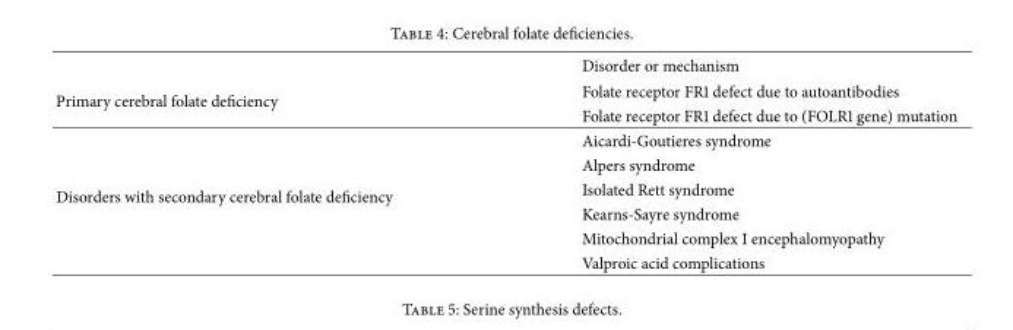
<table><thead><tr><td rowspan="3">Primary cerebral folate deficiency</td><td rowspan="3">Disorder or mechanism Folate receptor FR1 defect due to autoantibodies Folate receptor FR1 defect due to (FOLR1 gene) mutation</td></tr><tr></tr><tr></tr></thead><tbody><tr><td rowspan="6">Disorders with secondary cerebral folate deficiency</td><td>Aicardi-Goutieres syndrome</td></tr><tr><td>Alpers syndrome</td></tr><tr><td>Isolated Rett syndrome</td></tr><tr><td>Kearns-Sayre syndrome</td></tr><tr><td>Mitochondrial complex I encephalomyopathy</td></tr><tr><td>Valproic acid complications</td></tr></tbody></table>